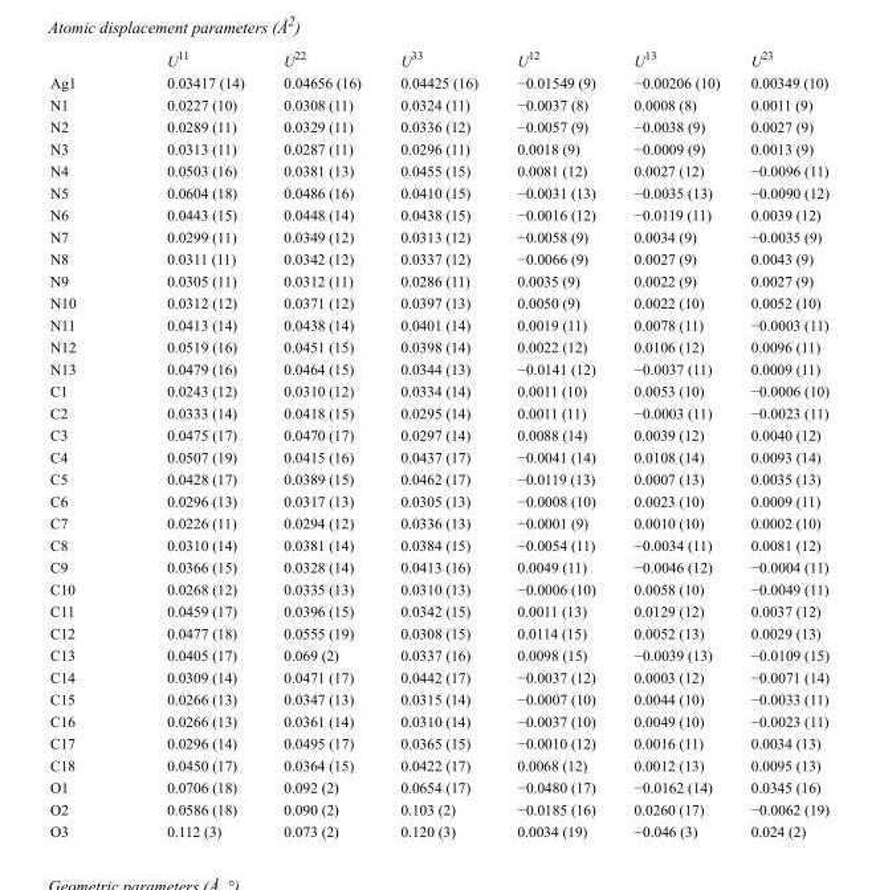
<table><thead><tr><td></td><td>U<sup>11</sup></td><td>U<sup>22</sup></td><td>U<sup>33</sup></td><td>U<sup>12</sup></td><td>U<sup>13</sup></td><td>U<sup>23</sup></td></tr></thead><tbody><tr><td>Ag1</td><td>0.03417 (14)</td><td>0.04656 (16)</td><td>0.04425 (16)</td><td>−0.01549 (9)</td><td>−0.00206 (10)</td><td>0.00349 (10)</td></tr><tr><td>N1</td><td>0.0227 (10)</td><td>0.0308 (11)</td><td>0.0324 (11)</td><td>−0.0037 (8)</td><td>0.0008 (8)</td><td>0.0011 (9)</td></tr><tr><td>N2</td><td>0.0289 (11)</td><td>0.0329 (11)</td><td>0.0336 (12)</td><td>−0.0057 (9)</td><td>−0.0038 (9)</td><td>0.0027 (9)</td></tr><tr><td>N3</td><td>0.0313 (11)</td><td>0.0287 (11)</td><td>0.0296 (11)</td><td>0.0018 (9)</td><td>−0.0009 (9)</td><td>0.0013 (9)</td></tr><tr><td>N4</td><td>0.0503 (16)</td><td>0.0381 (13)</td><td>0.0455 (15)</td><td>0.0081 (12)</td><td>0.0027 (12)</td><td>−0.0096 (11)</td></tr><tr><td>N5</td><td>0.0604 (18)</td><td>0.0486 (16)</td><td>0.0410 (15)</td><td>−0.0031 (13)</td><td>−0.0035 (13)</td><td>−0.0090 (12)</td></tr><tr><td>N6</td><td>0.0443 (15)</td><td>0.0448 (14)</td><td>0.0438 (15)</td><td>−0.0016 (12)</td><td>−0.0119 (11)</td><td>0.0039 (12)</td></tr><tr><td>N7</td><td>0.0299 (11)</td><td>0.0349 (12)</td><td>0.0313 (12)</td><td>−0.0058 (9)</td><td>0.0034 (9)</td><td>−0.0035 (9)</td></tr><tr><td>N8</td><td>0.0311 (11)</td><td>0.0342 (12)</td><td>0.0337 (12)</td><td>−0.0066 (9)</td><td>0.0027 (9)</td><td>0.0043 (9)</td></tr><tr><td>N9</td><td>0.0305 (11)</td><td>0.0312 (11)</td><td>0.0286 (11)</td><td>0.0035 (9)</td><td>0.0022 (9)</td><td>0.0027 (9)</td></tr><tr><td>N10</td><td>0.0312 (12)</td><td>0.0371 (12)</td><td>0.0397 (13)</td><td>0.0050 (9)</td><td>0.0022 (10)</td><td>0.0052 (10)</td></tr><tr><td>N11</td><td>0.0413 (14)</td><td>0.0438 (14)</td><td>0.0401 (14)</td><td>0.0019 (11)</td><td>0.0078 (11)</td><td>−0.0003 (11)</td></tr><tr><td>N12</td><td>0.0519 (16)</td><td>0.0451 (15)</td><td>0.0398 (14)</td><td>0.0022 (12)</td><td>0.0106 (12)</td><td>0.0096 (11)</td></tr><tr><td>N13</td><td>0.0479 (16)</td><td>0.0464 (15)</td><td>0.0344 (13)</td><td>−0.0141 (12)</td><td>−0.0037 (11)</td><td>0.0009 (11)</td></tr><tr><td>C1</td><td>0.0243 (12)</td><td>0.0310 (12)</td><td>0.0334 (14)</td><td>0.0011 (10)</td><td>0.0053 (10)</td><td>−0.0006 (10)</td></tr><tr><td>C2</td><td>0.0333 (14)</td><td>0.0418 (15)</td><td>0.0295 (14)</td><td>0.0011 (11)</td><td>−0.0003 (11)</td><td>−0.0023 (11)</td></tr><tr><td>C3</td><td>0.0475 (17)</td><td>0.0470 (17)</td><td>0.0297 (14)</td><td>0.0088 (14)</td><td>0.0039 (12)</td><td>0.0040 (12)</td></tr><tr><td>C4</td><td>0.0507 (19)</td><td>0.0415 (16)</td><td>0.0437 (17)</td><td>−0.0041 (14)</td><td>0.0108 (14)</td><td>0.0093 (14)</td></tr><tr><td>C5</td><td>0.0428 (17)</td><td>0.0389 (15)</td><td>0.0462 (17)</td><td>−0.0119 (13)</td><td>0.0007 (13)</td><td>0.0035 (13)</td></tr><tr><td>C6</td><td>0.0296 (13)</td><td>0.0317 (13)</td><td>0.0305 (13)</td><td>−0.0008 (10)</td><td>0.0023 (10)</td><td>0.0009 (11)</td></tr><tr><td>C7</td><td>0.0226 (11)</td><td>0.0294 (12)</td><td>0.0336 (13)</td><td>−0.0001 (9)</td><td>0.0010 (10)</td><td>0.0002 (10)</td></tr><tr><td>C8</td><td>0.0310 (14)</td><td>0.0381 (14)</td><td>0.0384 (15)</td><td>−0.0054 (11)</td><td>−0.0034 (11)</td><td>0.0081 (12)</td></tr><tr><td>C9</td><td>0.0366 (15)</td><td>0.0328 (14)</td><td>0.0413 (16)</td><td>0.0049 (11)</td><td>−0.0046 (12)</td><td>−0.0004 (11)</td></tr><tr><td>C10</td><td>0.0268 (12)</td><td>0.0335 (13)</td><td>0.0310 (13)</td><td>−0.0006 (10)</td><td>0.0058 (10)</td><td>−0.0049 (11)</td></tr><tr><td>C11</td><td>0.0459 (17)</td><td>0.0396 (15)</td><td>0.0342 (15)</td><td>0.0011 (13)</td><td>0.0129 (12)</td><td>0.0037 (12)</td></tr><tr><td>C12</td><td>0.0477 (18)</td><td>0.0555 (19)</td><td>0.0308 (15)</td><td>0.0114 (15)</td><td>0.0052 (13)</td><td>0.0029 (13)</td></tr><tr><td>C13</td><td>0.0405 (17)</td><td>0.069 (2)</td><td>0.0337 (16)</td><td>0.0098 (15)</td><td>−0.0039 (13)</td><td>−0.0109 (15)</td></tr><tr><td>C14</td><td>0.0309 (14)</td><td>0.0471 (17)</td><td>0.0442 (17)</td><td>−0.0037 (12)</td><td>0.0003 (12)</td><td>−0.0071 (14)</td></tr><tr><td>C15</td><td>0.0266 (13)</td><td>0.0347 (13)</td><td>0.0315 (14)</td><td>−0.0007 (10)</td><td>0.0044 (10)</td><td>−0.0033 (11)</td></tr><tr><td>C16</td><td>0.0266 (13)</td><td>0.0361 (14)</td><td>0.0310 (14)</td><td>−0.0037 (10)</td><td>0.0049 (10)</td><td>−0.0023 (11)</td></tr><tr><td>C17</td><td>0.0296 (14)</td><td>0.0495 (17)</td><td>0.0365 (15)</td><td>−0.0010 (12)</td><td>0.0016 (11)</td><td>0.0034 (13)</td></tr><tr><td>C18</td><td>0.0450 (17)</td><td>0.0364 (15)</td><td>0.0422 (17)</td><td>0.0068 (12)</td><td>0.0012 (13)</td><td>0.0095 (13)</td></tr><tr><td>O1</td><td>0.0706 (18)</td><td>0.092 (2)</td><td>0.0654 (17)</td><td>−0.0480 (17)</td><td>−0.0162 (14)</td><td>0.0345 (16)</td></tr><tr><td>O2</td><td>0.0586 (18)</td><td>0.090 (2)</td><td>0.103 (2)</td><td>−0.0185 (16)</td><td>0.0260 (17)</td><td>−0.0062 (19)</td></tr><tr><td>O3</td><td>0.112 (3)</td><td>0.073 (2)</td><td>0.120 (3)</td><td>0.0034 (19)</td><td>−0.046 (3)</td><td>0.024 (2)</td></tr></tbody></table>